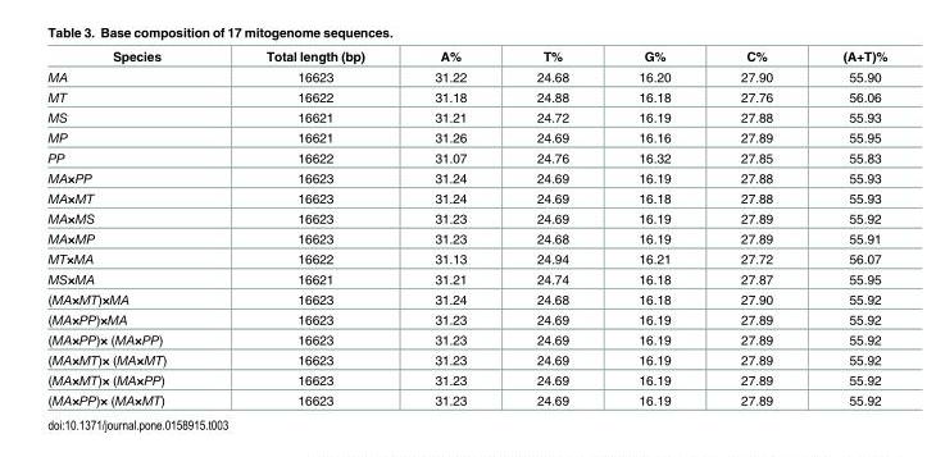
<table><thead><tr><td>Species</td><td>Total length (bp)</td><td>A%</td><td>T%</td><td>G%</td><td>C%</td><td>(A+T)%</td></tr></thead><tbody><tr><td>MA</td><td>16623</td><td>31.22</td><td>24.68</td><td>16.20</td><td>27.90</td><td>55.90</td></tr><tr><td>MT</td><td>16622</td><td>31.18</td><td>24.88</td><td>16.18</td><td>27.76</td><td>56.06</td></tr><tr><td>MS</td><td>16621</td><td>31.21</td><td>24.72</td><td>16.19</td><td>27.88</td><td>55.93</td></tr><tr><td>MP</td><td>16621</td><td>31.26</td><td>24.69</td><td>16.16</td><td>27.89</td><td>55.95</td></tr><tr><td>PP</td><td>16622</td><td>31.07</td><td>24.76</td><td>16.32</td><td>27.85</td><td>55.83</td></tr><tr><td>MA×PP</td><td>16623</td><td>31.24</td><td>24.69</td><td>16.19</td><td>27.88</td><td>55.93</td></tr><tr><td>MA×MT</td><td>16623</td><td>31.24</td><td>24.69</td><td>16.18</td><td>27.88</td><td>55.93</td></tr><tr><td>MA×MS</td><td>16623</td><td>31.23</td><td>24.69</td><td>16.19</td><td>27.89</td><td>55.92</td></tr><tr><td>MA×MP</td><td>16623</td><td>31.23</td><td>24.68</td><td>16.19</td><td>27.89</td><td>55.91</td></tr><tr><td>MT×MA</td><td>16622</td><td>31.13</td><td>24.94</td><td>16.21</td><td>27.72</td><td>56.07</td></tr><tr><td>MS×MA</td><td>16621</td><td>31.21</td><td>24.74</td><td>16.18</td><td>27.87</td><td>55.95</td></tr><tr><td>(MA×MT)×MA</td><td>16623</td><td>31.24</td><td>24.68</td><td>16.18</td><td>27.90</td><td>55.92</td></tr><tr><td>(MA×PP)×MA</td><td>16623</td><td>31.23</td><td>24.69</td><td>16.19</td><td>27.89</td><td>55.92</td></tr><tr><td>(MA×PP)× (MA×PP)</td><td>16623</td><td>31.23</td><td>24.69</td><td>16.19</td><td>27.89</td><td>55.92</td></tr><tr><td>(MA×MT)× (MA×MT)</td><td>16623</td><td>31.23</td><td>24.69</td><td>16.19</td><td>27.89</td><td>55.92</td></tr><tr><td>(MA×MT)× (MA×PP)</td><td>16623</td><td>31.23</td><td>24.69</td><td>16.19</td><td>27.89</td><td>55.92</td></tr><tr><td>(MA×PP)× (MA×MT)</td><td>16623</td><td>31.23</td><td>24.69</td><td>16.19</td><td>27.89</td><td>55.92</td></tr></tbody></table>